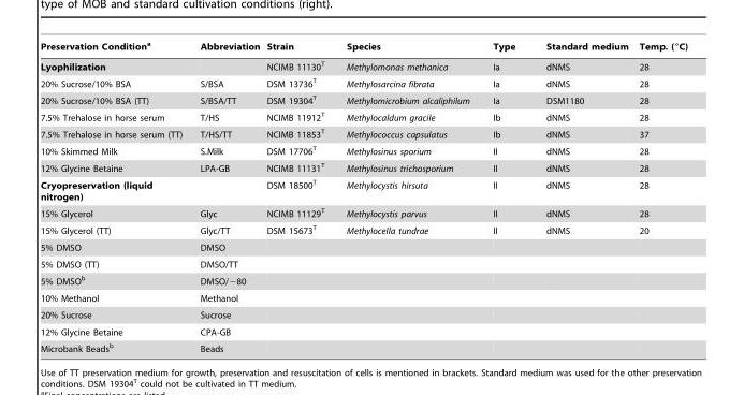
<table><thead><tr><td>Preservation Condition<sup>a</sup></td><td>Abbreviation</td><td>Strain</td><td>Species</td><td>Type</td><td>Standard medium</td><td>Temp. (°C)</td></tr></thead><tbody><tr><td>Lyophilization</td><td></td><td>NCIMB 11130<sup>T</sup></td><td>Methylomonas methanica</td><td>Ia</td><td>dNMS</td><td>28</td></tr><tr><td>20% Sucrose/10% BSA</td><td>S/BSA</td><td>DSM 13736<sup>T</sup></td><td>Methylosarcina fibrata</td><td>Ia</td><td>dNMS</td><td>28</td></tr><tr><td>20% Sucrose/10% BSA (TT)</td><td>S/BSA/TT</td><td>DSM 19304<sup>T</sup></td><td>Methylomicrobium alcaliphilum</td><td>Ia</td><td>DSM1180</td><td>28</td></tr><tr><td>7.5% Trehalose in horse serum</td><td>T/HS</td><td>NCIMB 11912<sup>T</sup></td><td>Methylocaldum gracile</td><td>Ib</td><td>dNMS</td><td>28</td></tr><tr><td>7.5% Trehalose in horse serum (TT)</td><td>T/HS/TT</td><td>NCIMB 11853<sup>T</sup></td><td>Methylococcus capsulatus</td><td>Ib</td><td>dNMS</td><td>37</td></tr><tr><td>10% Skimmed Milk</td><td>S.Milk</td><td>DSM 17706<sup>T</sup></td><td>Methylosinus sporium</td><td>II</td><td>dNMS</td><td>28</td></tr><tr><td>12% Glycine Betaine</td><td>LPA-GB</td><td>NCIMB 11131<sup>T</sup></td><td>Methylosinus trichosporium</td><td>II</td><td>dNMS</td><td>28</td></tr><tr><td>Cryopreservation (liquid nitrogen)</td><td></td><td>DSM 18500<sup>T</sup></td><td>Methylocystis hirsuta</td><td>II</td><td>dNMS</td><td>28</td></tr><tr><td>15% Glycerol</td><td>Glyc</td><td>NCIMB 11129<sup>T</sup></td><td>Methylocystis parvus</td><td>II</td><td>dNMS</td><td>28</td></tr><tr><td>15% Glycerol (TT)</td><td>Glyc/TT</td><td>DSM 15673<sup>T</sup></td><td>Methylocella tundrae</td><td>II</td><td>dNMS</td><td>20</td></tr><tr><td>5% DMSO</td><td>DMSO</td><td></td><td></td><td></td><td></td><td></td></tr><tr><td>5% DMSO (TT)</td><td>DMSO/TT</td><td></td><td></td><td></td><td></td><td></td></tr><tr><td>5% DMSO<sup>b</sup></td><td>DMSO/−80</td><td></td><td></td><td></td><td></td><td></td></tr><tr><td>10% Methanol</td><td>Methanol</td><td></td><td></td><td></td><td></td><td></td></tr><tr><td>20% Sucrose</td><td>Sucrose</td><td></td><td></td><td></td><td></td><td></td></tr><tr><td>12% Glycine Betaine</td><td>CPA-GB</td><td></td><td></td><td></td><td></td><td></td></tr><tr><td>Microbank Beads<sup>b</sup></td><td>Beads</td><td></td><td></td><td></td><td></td><td></td></tr></tbody></table>